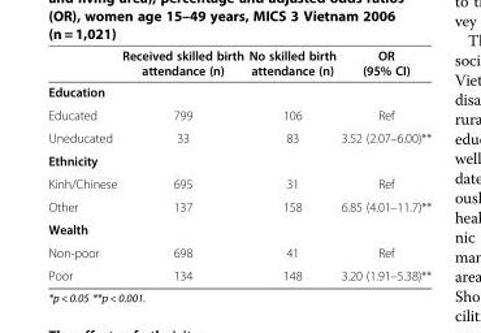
<table><thead><tr><td></td><td>Received skilled birth attendance (n)</td><td>No skilled birth attendance (n)</td><td>OR (95% CI)</td></tr></thead><tbody><tr><td colspan="4">Education</td></tr><tr><td>Educated</td><td>799</td><td>106</td><td>Ref</td></tr><tr><td>Uneducated</td><td>33</td><td>83</td><td>3.52 (2.07–6.00)**</td></tr><tr><td colspan="4">Ethnicity</td></tr><tr><td>Kinh/Chinese</td><td>695</td><td>31</td><td>Ref</td></tr><tr><td>Other</td><td>137</td><td>158</td><td>6.85 (4.01–11.7)**</td></tr><tr><td colspan="4">Wealth</td></tr><tr><td>Non-poor</td><td>698</td><td>41</td><td>Ref</td></tr><tr><td>Poor</td><td>134</td><td>148</td><td>3.20 (1.91–5.38)**</td></tr></tbody></table>